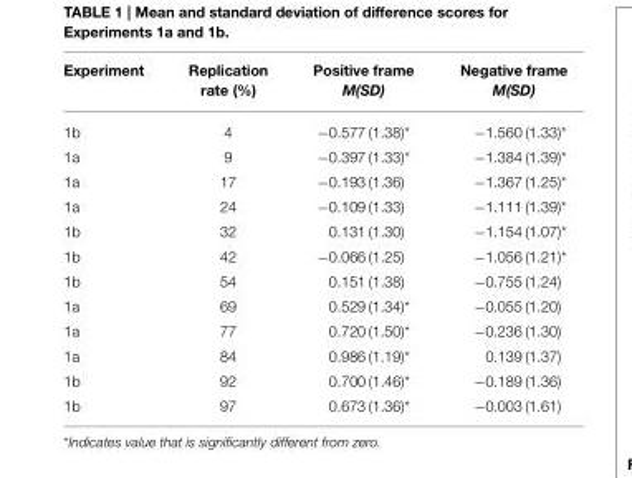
<table><thead><tr><td>Experiment</td><td>Replication rate (%)</td><td>Positive frame M(SD)</td><td>Negative frame M(SD)</td></tr></thead><tbody><tr><td>1b</td><td>4</td><td>−0.577 (1.38)*</td><td>−1.560 (1.33)*</td></tr><tr><td>1a</td><td>9</td><td>−0.397 (1.33)*</td><td>−1.384 (1.39)*</td></tr><tr><td>1a</td><td>17</td><td>−0.193 (1.36)</td><td>−1.367 (1.25)*</td></tr><tr><td>1a</td><td>24</td><td>−0.109 (1.33)</td><td>−1.111 (1.39)*</td></tr><tr><td>1b</td><td>32</td><td>0.131 (1.30)</td><td>−1.154 (1.07)*</td></tr><tr><td>1b</td><td>42</td><td>−0.066 (1.25)</td><td>−1.056 (1.21)*</td></tr><tr><td>1b</td><td>54</td><td>0.151 (1.38)</td><td>−0.755 (1.24)</td></tr><tr><td>1a</td><td>69</td><td>0.529 (1.34)*</td><td>−0.055 (1.20)</td></tr><tr><td>1a</td><td>77</td><td>0.720 (1.50)*</td><td>−0.236 (1.30)</td></tr><tr><td>1a</td><td>84</td><td>0.986 (1.19)*</td><td>0.139 (1.37)</td></tr><tr><td>1b</td><td>92</td><td>0.700 (1.46)*</td><td>−0.189 (1.36)</td></tr><tr><td>1b</td><td>97</td><td>0.673 (1.36)*</td><td>−0.003 (1.61)</td></tr></tbody></table>